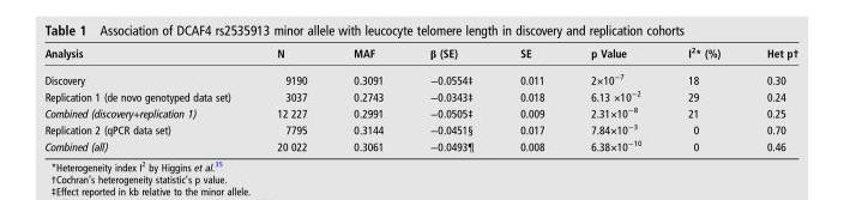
<table><thead><tr><td>Analysis</td><td>N</td><td>MAF</td><td>β (SE)</td><td>SE</td><td>p Value</td><td>I<sup>2</sup>* (%)</td><td>Het p†</td></tr></thead><tbody><tr><td>Discovery</td><td>9190</td><td>0.3091</td><td>−0.0554‡</td><td>0.011</td><td>2×10<sup>−7</sup></td><td>18</td><td>0.30</td></tr><tr><td>Replication 1 (de novo genotyped data set)</td><td>3037</td><td>0.2743</td><td>−0.0343‡</td><td>0.018</td><td>6.13 ×10<sup>−2</sup></td><td>29</td><td>0.24</td></tr><tr><td>Combined (discovery+replication 1)</td><td>12 227</td><td>0.2991</td><td>−0.0505‡</td><td>0.009</td><td>2.31×10<sup>−8</sup></td><td>21</td><td>0.25</td></tr><tr><td>Replication 2 (qPCR data set)</td><td>7795</td><td>0.3144</td><td>−0.0451§</td><td>0.017</td><td>7.84×10<sup>−3</sup></td><td>0</td><td>0.70</td></tr><tr><td>Combined (all)</td><td>20 022</td><td>0.3061</td><td>−0.0493¶</td><td>0.008</td><td>6.38×10<sup>−10</sup></td><td>0</td><td>0.46</td></tr></tbody></table>